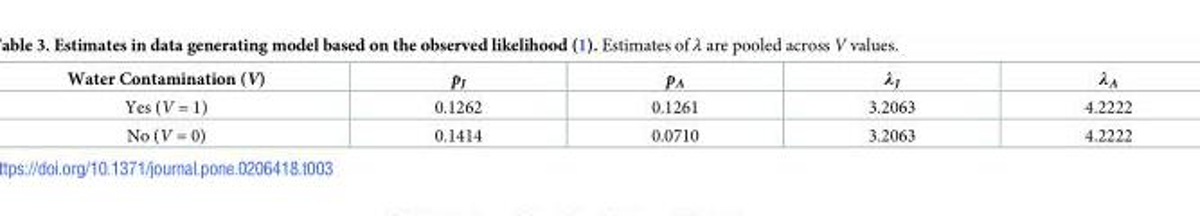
<table><thead><tr><td>Water Contamination (V)</td><td>p<sub>J</sub></td><td>p<sub>A</sub></td><td>λ<sub>J</sub></td><td>λ<sub>A</sub></td></tr></thead><tbody><tr><td>Yes (V = 1)</td><td>0.1262</td><td>0.1261</td><td>3.2063</td><td>4.2222</td></tr><tr><td>No (V = 0)</td><td>0.1414</td><td>0.0710</td><td>3.2063</td><td>4.2222</td></tr></tbody></table>